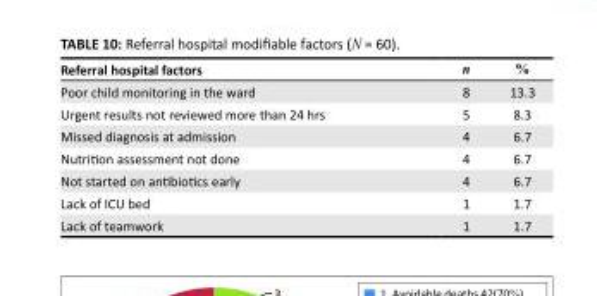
<table><thead><tr><td>Referral hospital factors</td><td>n</td><td>%</td></tr></thead><tbody><tr><td>Poor child monitoring in the ward</td><td>8</td><td>13.3</td></tr><tr><td>Urgent results not reviewed more than 24 hrs</td><td>5</td><td>8.3</td></tr><tr><td>Missed diagnosis at admission</td><td>4</td><td>6.7</td></tr><tr><td>Nutrition assessment not done</td><td>4</td><td>6.7</td></tr><tr><td>Not started on antibiotics early</td><td>4</td><td>6.7</td></tr><tr><td>Lack of ICU bed</td><td>1</td><td>1.7</td></tr><tr><td>Lack of teamwork</td><td>1</td><td>1.7</td></tr></tbody></table>